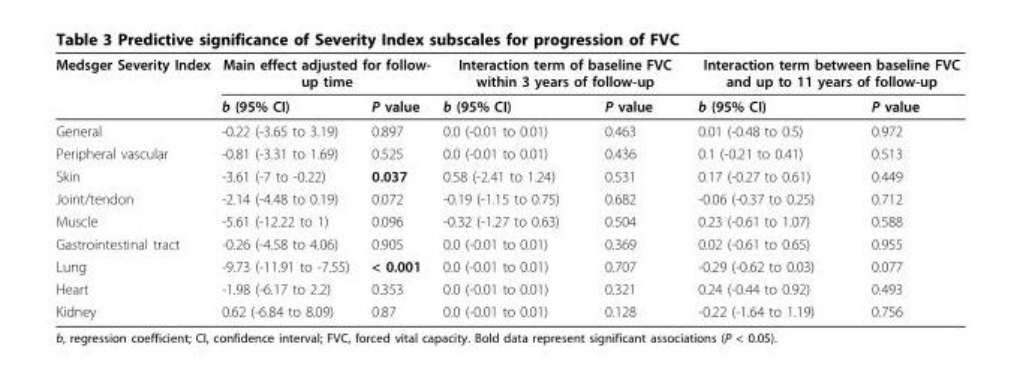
<table><thead><tr><td rowspan="2">Medsger Severity Index</td><td colspan="2">Main effect adjusted for follow- up time</td><td colspan="2">Interaction term of baseline FVC within 3 years of follow-up</td><td colspan="2">Interaction term between baseline FVC and up to 11 years of follow-up</td></tr><tr><td>b (95% CI)</td><td>P value</td><td>b (95% CI)</td><td>P value</td><td>b (95% CI)</td><td>P value</td></tr></thead><tbody><tr><td>General</td><td>-0.22 (-3.65 to 3.19)</td><td>0.897</td><td>0.0 (-0.01 to 0.01)</td><td>0.463</td><td>0.01 (-0.48 to 0.5)</td><td>0.972</td></tr><tr><td>Peripheral vascular</td><td>-0.81 (-3.31 to 1.69)</td><td>0.525</td><td>0.0 (-0.01 to 0.01)</td><td>0.436</td><td>0.1 (-0.21 to 0.41)</td><td>0.513</td></tr><tr><td>Skin</td><td>-3.61 (-7 to -0.22)</td><td>0.037</td><td>0.58 (-2.41 to 1.24)</td><td>0.531</td><td>0.17 (-0.27 to 0.61)</td><td>0.449</td></tr><tr><td>Joint/tendon</td><td>-2.14 (-4.48 to 0.19)</td><td>0.072</td><td>-0.19 (-1.15 to 0.75)</td><td>0.682</td><td>-0.06 (-0.37 to 0.25)</td><td>0.712</td></tr><tr><td>Muscle</td><td>-5.61 (-12.22 to 1)</td><td>0.096</td><td>-0.32 (-1.27 to 0.63)</td><td>0.504</td><td>0.23 (-0.61 to 1.07)</td><td>0.588</td></tr><tr><td>Gastrointestinal tract</td><td>-0.26 (-4.58 to 4.06)</td><td>0.905</td><td>0.0 (-0.01 to 0.01)</td><td>0.369</td><td>0.02 (-0.61 to 0.65)</td><td>0.955</td></tr><tr><td>Lung</td><td>-9.73 (-11.91 to -7.55)</td><td>&lt; 0.001</td><td>0.0 (-0.01 to 0.01)</td><td>0.707</td><td>-0.29 (-0.62 to 0.03)</td><td>0.077</td></tr><tr><td>Heart</td><td>-1.98 (-6.17 to 2.2)</td><td>0.353</td><td>0.0 (-0.01 to 0.01)</td><td>0.321</td><td>0.24 (-0.44 to 0.92)</td><td>0.493</td></tr><tr><td>Kidney</td><td>0.62 (-6.84 to 8.09)</td><td>0.87</td><td>0.0 (-0.01 to 0.01)</td><td>0.128</td><td>-0.22 (-1.64 to 1.19)</td><td>0.756</td></tr></tbody></table>